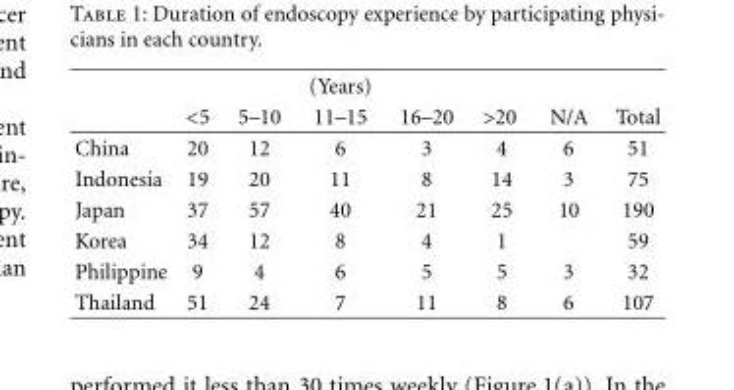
<table><thead><tr><td rowspan="2"></td><td rowspan="2">&lt;5</td><td rowspan="2">5–10</td><td rowspan="2">(Years) 11–15</td><td rowspan="2">16–20</td><td rowspan="2">&gt;20</td><td rowspan="2">N/A</td><td rowspan="2">Total</td></tr><tr></tr></thead><tbody><tr><td>China</td><td>20</td><td>12</td><td>6</td><td>3</td><td>4</td><td>6</td><td>51</td></tr><tr><td>Indonesia</td><td>19</td><td>20</td><td>11</td><td>8</td><td>14</td><td>3</td><td>75</td></tr><tr><td>Japan</td><td>37</td><td>57</td><td>40</td><td>21</td><td>25</td><td>10</td><td>190</td></tr><tr><td>Korea</td><td>34</td><td>12</td><td>8</td><td>4</td><td>1</td><td></td><td>59</td></tr><tr><td>Philippine</td><td>9</td><td>4</td><td>6</td><td>5</td><td>5</td><td>3</td><td>32</td></tr><tr><td>Thailand</td><td>51</td><td>24</td><td>7</td><td>11</td><td>8</td><td>6</td><td>107</td></tr></tbody></table>